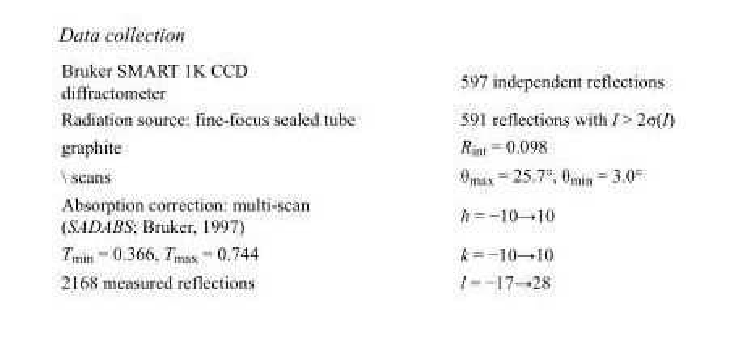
<table><tbody><tr><td>Bruker SMART 1K CCD diffractometer</td><td>597 independent reflections</td></tr><tr><td>Radiation source: fine-focus sealed tube</td><td>591 reflections with I &gt; 2σ(I)</td></tr><tr><td>graphite</td><td>R<sub>int</sub> = 0.098</td></tr><tr><td>\ scans</td><td>θ<sub>max</sub> = 25.7°, θ<sub>min</sub> = 3.0°</td></tr><tr><td>Absorption correction: multi-scan (SADABS; Bruker, 1997)</td><td>h = −10→10</td></tr><tr><td>T<sub>min</sub> = 0.366, T<sub>max</sub> = 0.744</td><td>k = −10→10</td></tr><tr><td>2168 measured reflections</td><td>l = −17→28</td></tr></tbody></table>